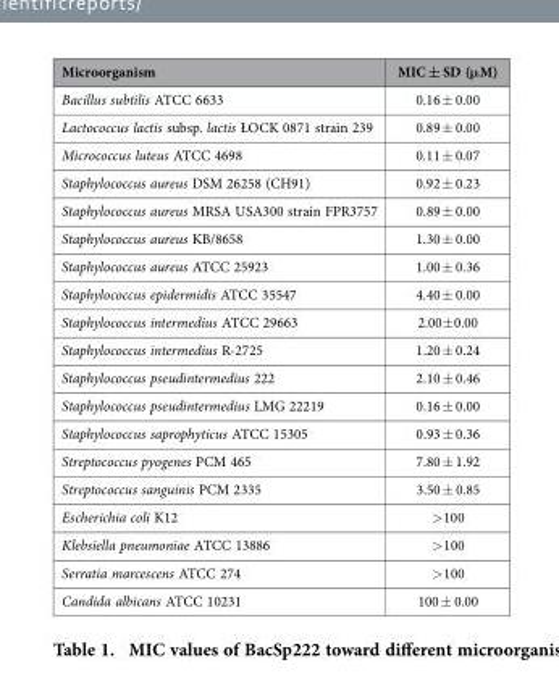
<table><thead><tr><td>Microorganism</td><td>MIC ± SD (μ M)</td></tr></thead><tbody><tr><td>Bacillus subtilis ATCC 6633</td><td>0.16 ± 0.00</td></tr><tr><td>Lactococcus lactis subsp. lactis ŁOCK 0871 strain 239</td><td>0.89 ± 0.00</td></tr><tr><td>Micrococcus luteus ATCC 4698</td><td>0.11 ± 0.07</td></tr><tr><td>Staphylococcus aureus DSM 26258 (CH91)</td><td>0.92 ± 0.23</td></tr><tr><td>Staphylococcus aureus MRSA USA300 strain FPR3757</td><td>0.89 ± 0.00</td></tr><tr><td>Staphylococcus aureus KB/8658</td><td>1.30 ± 0.00</td></tr><tr><td>Staphylococcus aureus ATCC 25923</td><td>1.00 ± 0.36</td></tr><tr><td>Staphylococcus epidermidis ATCC 35547</td><td>4.40 ± 0.00</td></tr><tr><td>Staphylococcus intermedius ATCC 29663</td><td>2.00± 0.00</td></tr><tr><td>Staphylococcus intermedius R-2725</td><td>1.20 ± 0.24</td></tr><tr><td>Staphylococcus pseudintermedius 222</td><td>2.10 ± 0.46</td></tr><tr><td>Staphylococcus pseudintermedius LMG 22219</td><td>0.16 ± 0.00</td></tr><tr><td>Staphylococcus saprophyticus ATCC 15305</td><td>0.93 ± 0.36</td></tr><tr><td>Streptococcus pyogenes PCM 465</td><td>7.80 ± 1.92</td></tr><tr><td>Streptococcus sanguinis PCM 2335</td><td>3.50 ± 0.85</td></tr><tr><td>Escherichia coli K12</td><td>&gt; 100</td></tr><tr><td>Klebsiella pneumoniae ATCC 13886</td><td>&gt; 100</td></tr><tr><td>Serratia marcescens ATCC 274</td><td>&gt; 100</td></tr><tr><td>Candida albicans ATCC 10231</td><td>100 ± 0.00</td></tr></tbody></table>